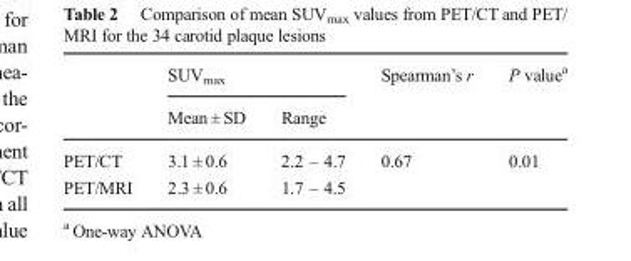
<table><thead><tr><td rowspan="2"></td><td colspan="2">SUV<sub>max</sub></td><td rowspan="2">Spearman’s r</td><td rowspan="2">P value<sup>a</sup></td></tr><tr><td>Mean ± SD</td><td>Range</td></tr></thead><tbody><tr><td>PET/CT</td><td>3.1 ± 0.6</td><td>2.2 – 4.7</td><td>0.67</td><td>0.01</td></tr><tr><td>PET/MRI</td><td>2.3 ± 0.6</td><td>1.7 – 4.5</td><td></td><td></td></tr></tbody></table>